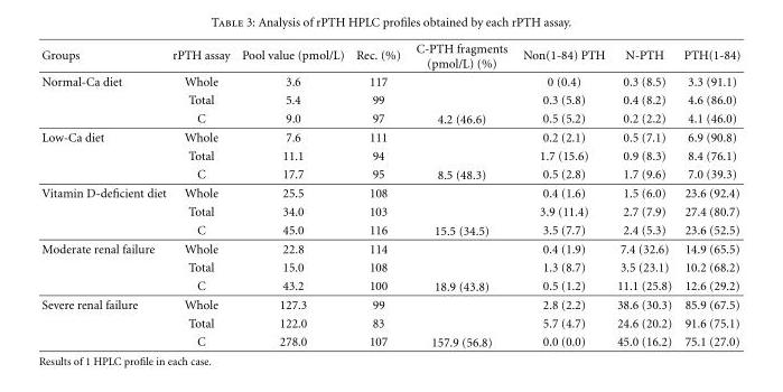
<table><thead><tr><td>Groups</td><td>rPTH assay</td><td>Pool value (pmol/L)</td><td>Rec. (%)</td><td>C-PTH fragments (pmol/L) (%)</td><td>Non(1-84) PTH</td><td>N-PTH</td><td>PTH(1-84)</td></tr></thead><tbody><tr><td rowspan="3">Normal-Ca diet</td><td>Whole</td><td>3.6</td><td>117</td><td></td><td>0 (0.4)</td><td>0.3 (8.5)</td><td>3.3 (91.1)</td></tr><tr><td>Total</td><td>5.4</td><td>99</td><td></td><td>0.3 (5.8)</td><td>0.4 (8.2)</td><td>4.6 (86.0)</td></tr><tr><td>C</td><td>9.0</td><td>97</td><td>4.2 (46.6)</td><td>0.5 (5.2)</td><td>0.2 (2.2)</td><td>4.1 (46.0)</td></tr><tr><td rowspan="3">Low-Ca diet</td><td>Whole</td><td>7.6</td><td>111</td><td></td><td>0.2 (2.1)</td><td>0.5 (7.1)</td><td>6.9 (90.8)</td></tr><tr><td>Total</td><td>11.1</td><td>94</td><td></td><td>1.7 (15.6)</td><td>0.9 (8.3)</td><td>8.4 (76.1)</td></tr><tr><td>C</td><td>17.7</td><td>95</td><td>8.5 (48.3)</td><td>0.5 (2.8)</td><td>1.7 (9.6)</td><td>7.0 (39.3)</td></tr><tr><td rowspan="3">Vitamin D-deficient diet</td><td>Whole</td><td>25.5</td><td>108</td><td></td><td>0.4 (1.6)</td><td>1.5 (6.0)</td><td>23.6 (92.4)</td></tr><tr><td>Total</td><td>34.0</td><td>103</td><td></td><td>3.9 (11.4)</td><td>2.7 (7.9)</td><td>27.4 (80.7)</td></tr><tr><td>C</td><td>45.0</td><td>116</td><td>15.5 (34.5)</td><td>3.5 (7.7)</td><td>2.4 (5.3)</td><td>23.6 (52.5)</td></tr><tr><td rowspan="3">Moderate renal failure</td><td>Whole</td><td>22.8</td><td>114</td><td></td><td>0.4 (1.9)</td><td>7.4 (32.6)</td><td>14.9 (65.5)</td></tr><tr><td>Total</td><td>15.0</td><td>108</td><td></td><td>1.3 (8.7)</td><td>3.5 (23.1)</td><td>10.2 (68.2)</td></tr><tr><td>C</td><td>43.2</td><td>100</td><td>18.9 (43.8)</td><td>0.5 (1.2)</td><td>11.1 (25.8)</td><td>12.6 (29.2)</td></tr><tr><td rowspan="3">Severe renal failure</td><td>Whole</td><td>127.3</td><td>99</td><td></td><td>2.8 (2.2)</td><td>38.6 (30.3)</td><td>85.9 (67.5)</td></tr><tr><td>Total</td><td>122.0</td><td>83</td><td></td><td>5.7 (4.7)</td><td>24.6 (20.2)</td><td>91.6 (75.1)</td></tr><tr><td>C</td><td>278.0</td><td>107</td><td>157.9 (56.8)</td><td>0.0 (0.0)</td><td>45.0 (16.2)</td><td>75.1 (27.0)</td></tr></tbody></table>